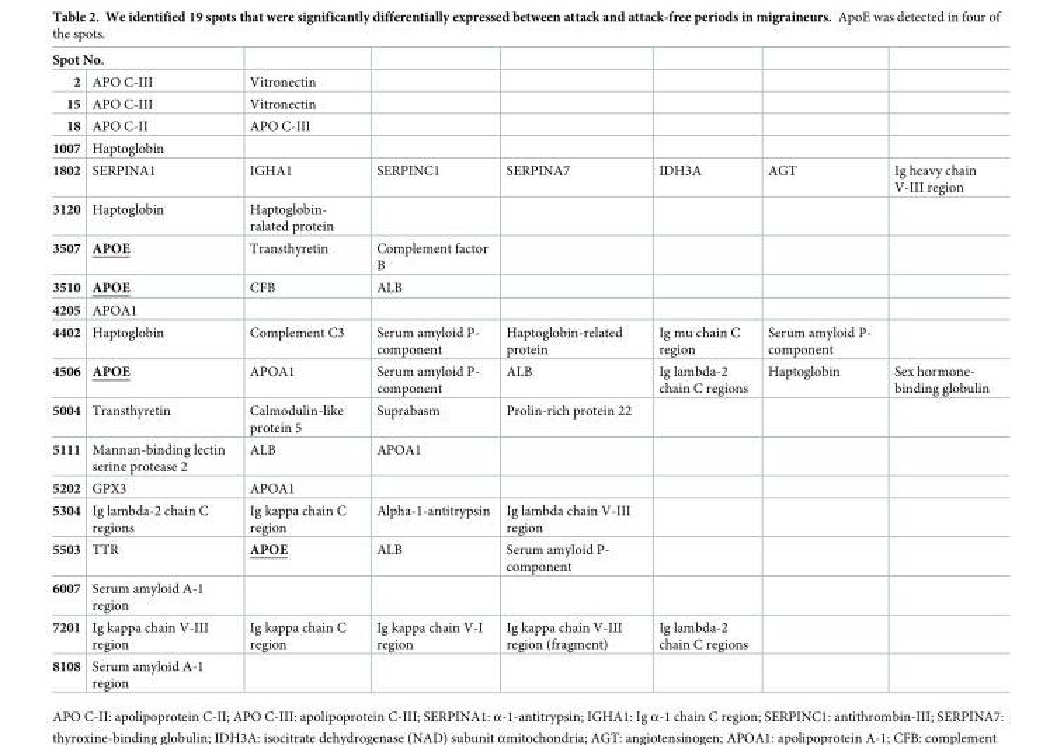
<table><thead><tr><td colspan="2">Spot No.</td><td rowspan="2">Vitronectin</td><td rowspan="2"></td><td rowspan="2"></td><td rowspan="2"></td><td rowspan="2"></td><td rowspan="2"></td></tr><tr><td>2</td><td>APO C-III</td></tr></thead><tbody><tr><td>15</td><td>APO C-III</td><td>Vitronectin</td><td></td><td></td><td></td><td></td><td></td></tr><tr><td>18</td><td>APO C-II</td><td>APO C-III</td><td></td><td></td><td></td><td></td><td></td></tr><tr><td>1007</td><td>Haptoglobin</td><td></td><td></td><td></td><td></td><td></td><td></td></tr><tr><td>1802</td><td>SERPINA1</td><td>IGHA1</td><td>SERPINC1</td><td>SERPINA7</td><td>IDH3A</td><td>AGT</td><td>Ig heavy chain V-III region</td></tr><tr><td>3120</td><td>Haptoglobin</td><td>Haptoglobin- ralated protein</td><td></td><td></td><td></td><td></td><td></td></tr><tr><td>3507</td><td>APOE</td><td>Transthyretin</td><td>Complement factor B</td><td></td><td></td><td></td><td></td></tr><tr><td>3510</td><td>APOE</td><td>CFB</td><td>ALB</td><td></td><td></td><td></td><td></td></tr><tr><td>4205</td><td>APOA1</td><td></td><td></td><td></td><td></td><td></td><td></td></tr><tr><td>4402</td><td>Haptoglobin</td><td>Complement C3</td><td>Serum amyloid P- component</td><td>Haptoglobin-related protein</td><td>Ig mu chain C region</td><td>Serum amyloid P- component</td><td></td></tr><tr><td>4506</td><td>APOE</td><td>APOA1</td><td>Serum amyloid P- component</td><td>ALB</td><td>Ig lambda-2 chain C regions</td><td>Haptoglobin</td><td>Sex hormone- binding globulin</td></tr><tr><td>5004</td><td>Transthyretin</td><td>Calmodulin-like protein 5</td><td>Suprabasm</td><td>Prolin-rich protein 22</td><td></td><td></td><td></td></tr><tr><td>5111</td><td>Mannan-binding lectin serine protease 2</td><td>ALB</td><td>APOA1</td><td></td><td></td><td></td><td></td></tr><tr><td>5202</td><td>GPX3</td><td>APOA1</td><td></td><td></td><td></td><td></td><td></td></tr><tr><td>5304</td><td>Ig lambda-2 chain C regions</td><td>Ig kappa chain C region</td><td>Alpha-1-antitrypsin</td><td>Ig lambda chain V-III region</td><td></td><td></td><td></td></tr><tr><td>5503</td><td>TTR</td><td>APOE</td><td>ALB</td><td>Serum amyloid P- component</td><td></td><td></td><td></td></tr><tr><td>6007</td><td>Serum amyloid A-1 region</td><td></td><td></td><td></td><td></td><td></td><td></td></tr><tr><td>7201</td><td>Ig kappa chain V-III region</td><td>Ig kappa chain C region</td><td>Ig kappa chain V-I region</td><td>Ig kappa chain V-III region (fragment)</td><td>Ig lambda-2 chain C regions</td><td></td><td></td></tr><tr><td>8108</td><td>Serum amyloid A-1 region</td><td></td><td></td><td></td><td></td><td></td><td></td></tr></tbody></table>